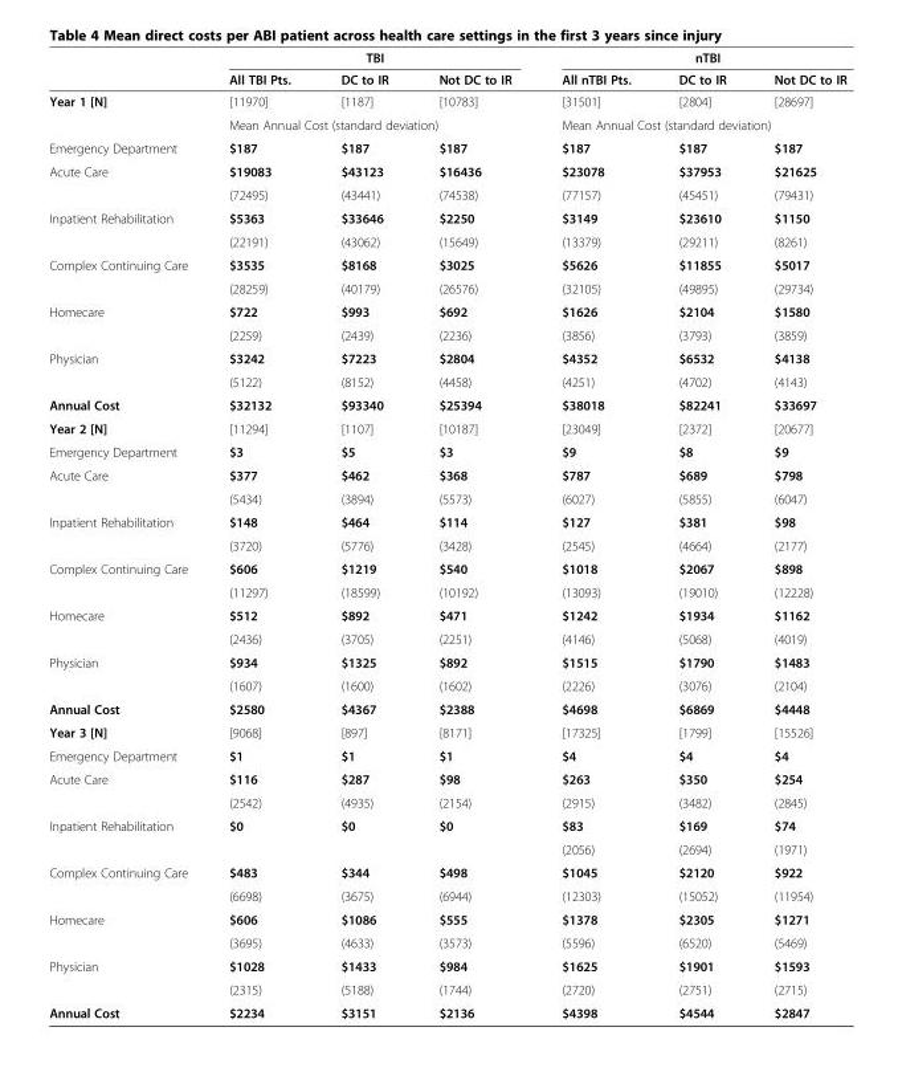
<table><thead><tr><td rowspan="2"></td><td colspan="3">TBI</td><td colspan="3">nTBI</td></tr><tr><td>All TBI Pts.</td><td>DC to IR</td><td>Not DC to IR</td><td>All nTBI Pts.</td><td>DC to IR</td><td>Not DC to IR</td></tr></thead><tbody><tr><td rowspan="2">Year 1 [N]</td><td>[11970]</td><td>[1187]</td><td>[10783]</td><td>[31501]</td><td>[2804]</td><td>[28697]</td></tr><tr><td colspan="3">Mean Annual Cost (standard deviation)</td><td colspan="3">Mean Annual Cost (standard deviation)</td></tr><tr><td>Emergency Department</td><td>$187</td><td>$187</td><td>$187</td><td>$187</td><td>$187</td><td>$187</td></tr><tr><td rowspan="2">Acute Care</td><td>$19083</td><td>$43123</td><td>$16436</td><td>$23078</td><td>$37953</td><td>$21625</td></tr><tr><td>(72495)</td><td>(43441)</td><td>(74538)</td><td>(77157)</td><td>(45451)</td><td>(79431)</td></tr><tr><td rowspan="2">Inpatient Rehabilitation</td><td>$5363</td><td>$33646</td><td>$2250</td><td>$3149</td><td>$23610</td><td>$1150</td></tr><tr><td>(22191)</td><td>(43062)</td><td>(15649)</td><td>(13379)</td><td>(29211)</td><td>(8261)</td></tr><tr><td rowspan="2">Complex Continuing Care</td><td>$3535</td><td>$8168</td><td>$3025</td><td>$5626</td><td>$11855</td><td>$5017</td></tr><tr><td>(28259)</td><td>(40179)</td><td>(26576)</td><td>(32105)</td><td>(49895)</td><td>(29734)</td></tr><tr><td rowspan="2">Homecare</td><td>$722</td><td>$993</td><td>$692</td><td>$1626</td><td>$2104</td><td>$1580</td></tr><tr><td>(2259)</td><td>(2439)</td><td>(2236)</td><td>(3856)</td><td>(3793)</td><td>(3859)</td></tr><tr><td rowspan="2">Physician</td><td>$3242</td><td>$7223</td><td>$2804</td><td>$4352</td><td>$6532</td><td>$4138</td></tr><tr><td>(5122)</td><td>(8152)</td><td>(4458)</td><td>(4251)</td><td>(4702)</td><td>(4143)</td></tr><tr><td>Annual Cost</td><td>$32132</td><td>$93340</td><td>$25394</td><td>$38018</td><td>$82241</td><td>$33697</td></tr><tr><td>Year 2 [N]</td><td>[11294]</td><td>[1107]</td><td>[10187]</td><td>[23049]</td><td>[2372]</td><td>[20677]</td></tr><tr><td>Emergency Department</td><td>$3</td><td>$5</td><td>$3</td><td>$9</td><td>$8</td><td>$9</td></tr><tr><td rowspan="2">Acute Care</td><td>$377</td><td>$462</td><td>$368</td><td>$787</td><td>$689</td><td>$798</td></tr><tr><td>(5434)</td><td>(3894)</td><td>(5573)</td><td>(6027)</td><td>(5855)</td><td>(6047)</td></tr><tr><td rowspan="2">Inpatient Rehabilitation</td><td>$148</td><td>$464</td><td>$114</td><td>$127</td><td>$381</td><td>$98</td></tr><tr><td>(3720)</td><td>(5776)</td><td>(3428)</td><td>(2545)</td><td>(4664)</td><td>(2177)</td></tr><tr><td rowspan="2">Complex Continuing Care</td><td>$606</td><td>$1219</td><td>$540</td><td>$1018</td><td>$2067</td><td>$898</td></tr><tr><td>(11297)</td><td>(18599)</td><td>(10192)</td><td>(13093)</td><td>(19010)</td><td>(12228)</td></tr><tr><td rowspan="2">Homecare</td><td>$512</td><td>$892</td><td>$471</td><td>$1242</td><td>$1934</td><td>$1162</td></tr><tr><td>(2436)</td><td>(3705)</td><td>(2251)</td><td>(4146)</td><td>(5068)</td><td>(4019)</td></tr><tr><td rowspan="2">Physician</td><td>$934</td><td>$1325</td><td>$892</td><td>$1515</td><td>$1790</td><td>$1483</td></tr><tr><td>(1607)</td><td>(1600)</td><td>(1602)</td><td>(2226)</td><td>(3076)</td><td>(2104)</td></tr><tr><td>Annual Cost</td><td>$2580</td><td>$4367</td><td>$2388</td><td>$4698</td><td>$6869</td><td>$4448</td></tr><tr><td>Year 3 [N]</td><td>[9068]</td><td>[897]</td><td>[8171]</td><td>[17325]</td><td>[1799]</td><td>[15526]</td></tr><tr><td>Emergency Department</td><td>$1</td><td>$1</td><td>$1</td><td>$4</td><td>$4</td><td>$4</td></tr><tr><td rowspan="2">Acute Care</td><td>$116</td><td>$287</td><td>$98</td><td>$263</td><td>$350</td><td>$254</td></tr><tr><td>(2542)</td><td>(4935)</td><td>(2154)</td><td>(2915)</td><td>(3482)</td><td>(2845)</td></tr><tr><td rowspan="2">Inpatient Rehabilitation</td><td>$0</td><td>$0</td><td>$0</td><td>$83</td><td>$169</td><td>$74</td></tr><tr><td></td><td></td><td></td><td>(2056)</td><td>(2694)</td><td>(1971)</td></tr><tr><td rowspan="2">Complex Continuing Care</td><td>$483</td><td>$344</td><td>$498</td><td>$1045</td><td>$2120</td><td>$922</td></tr><tr><td>(6698)</td><td>(3675)</td><td>(6944)</td><td>(12303)</td><td>(15052)</td><td>(11954)</td></tr><tr><td rowspan="2">Homecare</td><td>$606</td><td>$1086</td><td>$555</td><td>$1378</td><td>$2305</td><td>$1271</td></tr><tr><td>(3695)</td><td>(4633)</td><td>(3573)</td><td>(5596)</td><td>(6520)</td><td>(5469)</td></tr><tr><td rowspan="2">Physician</td><td>$1028</td><td>$1433</td><td>$984</td><td>$1625</td><td>$1901</td><td>$1593</td></tr><tr><td>(2315)</td><td>(5188)</td><td>(1744)</td><td>(2720)</td><td>(2751)</td><td>(2715)</td></tr><tr><td>Annual Cost</td><td>$2234</td><td>$3151</td><td>$2136</td><td>$4398</td><td>$4544</td><td>$2847</td></tr></tbody></table>